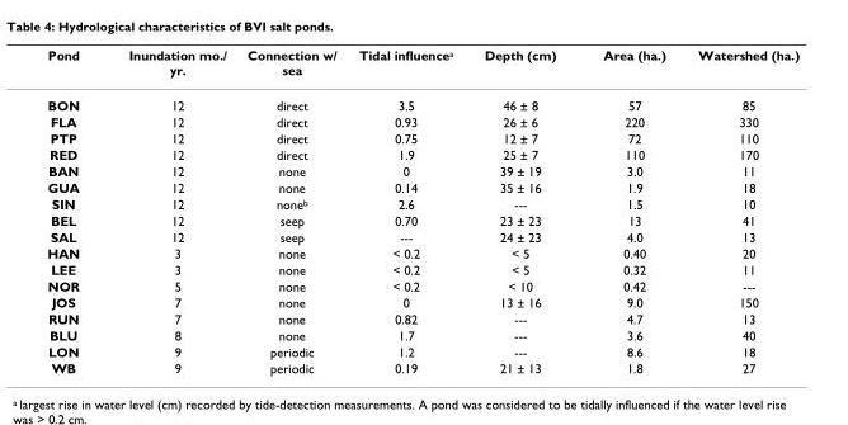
<table><thead><tr><td>Pond</td><td>Inundation mo./ yr.</td><td>Connection w/ sea</td><td>Tidal influence<sup>a</sup></td><td>Depth (cm)</td><td>Area (ha.)</td><td>Watershed (ha.)</td></tr></thead><tbody><tr><td>BON</td><td>12</td><td>direct</td><td>3.5</td><td>46 ± 8</td><td>57</td><td>85</td></tr><tr><td>FLA</td><td>12</td><td>direct</td><td>0.93</td><td>26 ± 6</td><td>220</td><td>330</td></tr><tr><td>PTP</td><td>12</td><td>direct</td><td>0.75</td><td>12 ± 7</td><td>72</td><td>110</td></tr><tr><td>RED</td><td>12</td><td>direct</td><td>1.9</td><td>25 ± 7</td><td>110</td><td>170</td></tr><tr><td>BAN</td><td>12</td><td>none</td><td>0</td><td>39 ± 19</td><td>3.0</td><td>11</td></tr><tr><td>GUA</td><td>12</td><td>none</td><td>0.14</td><td>35 ± 16</td><td>1.9</td><td>18</td></tr><tr><td>SIN</td><td>12</td><td>none<sup>b</sup></td><td>2.6</td><td>---</td><td>1.5</td><td>10</td></tr><tr><td>BEL</td><td>12</td><td>seep</td><td>0.70</td><td>23 ± 23</td><td>13</td><td>41</td></tr><tr><td>SAL</td><td>12</td><td>seep</td><td>---</td><td>24 ± 23</td><td>4.0</td><td>13</td></tr><tr><td>HAN</td><td>3</td><td>none</td><td>&lt; 0.2</td><td>&lt; 5</td><td>0.40</td><td>20</td></tr><tr><td>LEE</td><td>3</td><td>none</td><td>&lt; 0.2</td><td>&lt; 5</td><td>0.32</td><td>11</td></tr><tr><td>NOR</td><td>5</td><td>none</td><td>&lt; 0.2</td><td>&lt; 10</td><td>0.42</td><td>---</td></tr><tr><td>JOS</td><td>7</td><td>none</td><td>0</td><td>13 ± 16</td><td>9.0</td><td>150</td></tr><tr><td>RUN</td><td>7</td><td>none</td><td>0.82</td><td>---</td><td>4.7</td><td>13</td></tr><tr><td>BLU</td><td>8</td><td>none</td><td>1.7</td><td>---</td><td>3.6</td><td>40</td></tr><tr><td>LON</td><td>9</td><td>periodic</td><td>1.2</td><td>---</td><td>8.6</td><td>18</td></tr><tr><td>WB</td><td>9</td><td>periodic</td><td>0.19</td><td>21 ± 13</td><td>1.8</td><td>27</td></tr></tbody></table>